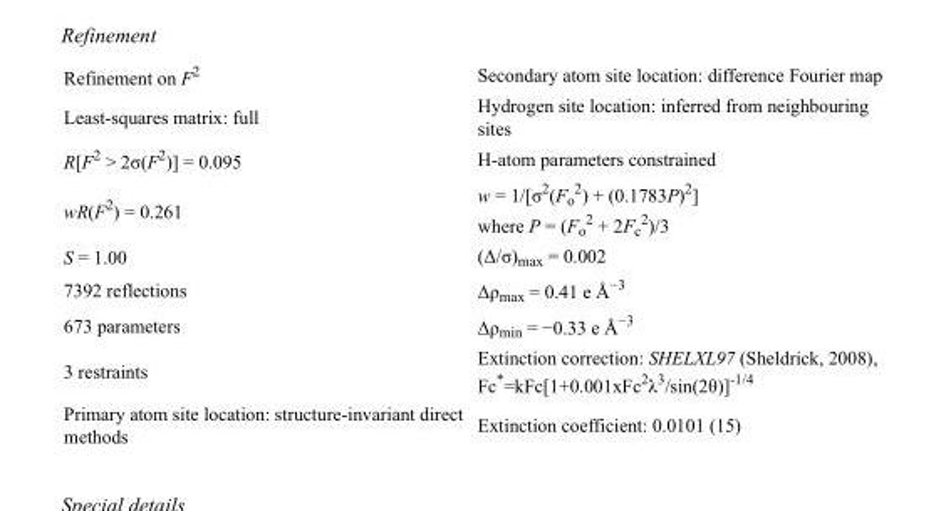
<table><tbody><tr><td>Refinement on F<sup>2</sup></td><td>Secondary atom site location: difference Fourier map</td></tr><tr><td>Least-squares matrix: full</td><td>Hydrogen site location: inferred from neighbouring sites</td></tr><tr><td>R[F<sup>2</sup> &gt; 2σ(F<sup>2</sup>)] = 0.095</td><td>H-atom parameters constrained</td></tr><tr><td>wR(F<sup>2</sup>) = 0.261</td><td>w = 1/[σ<sup>2</sup>(F<sub>o</sub> <sup>2</sup>) + (0.1783P)<sup>2</sup>] where P = (F<sub>o</sub> <sup>2</sup> + 2F<sub>c</sub> <sup>2</sup>)/3</td></tr><tr><td>S = 1.00</td><td>(Δ/σ)<sub>max</sub> = 0.002</td></tr><tr><td>7392 reflections</td><td>Δρ<sub>max</sub> = 0.41 e Å<sup>−3</sup></td></tr><tr><td>673 parameters</td><td>Δρ<sub>min</sub> = −0.33 e Å<sup>−3</sup></td></tr><tr><td>3 restraints</td><td>Extinction correction: SHELXL97 (Sheldrick, 2008), Fc*=kFc[1+0.001xFc<sup>2</sup>λ<sup>3</sup>/sin(2θ)]<sup>-1/4</sup></td></tr><tr><td>Primary atom site location: structure-invariant direct methods</td><td>Extinction coefficient: 0.0101 (15)</td></tr></tbody></table>